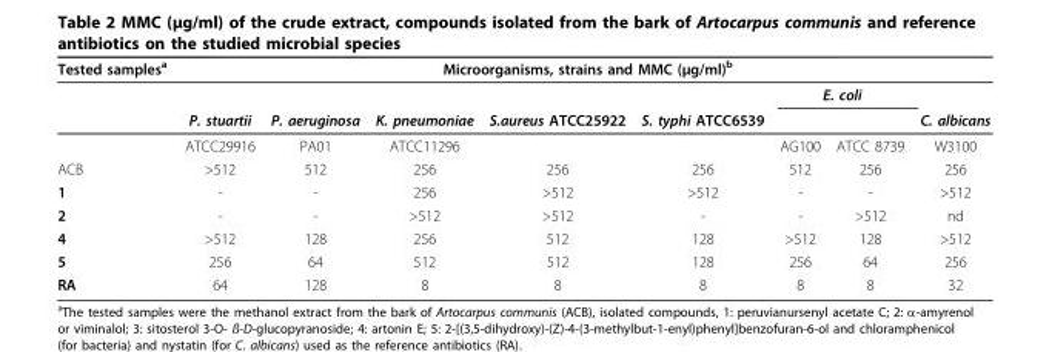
<table><thead><tr><td rowspan="3">Tested samples<sup>a</sup></td><td colspan="8">Microorganisms, strains and MMC (μg/ml)<sup>b</sup></td></tr><tr><td rowspan="2">P. stuartii</td><td rowspan="2">P. aeruginosa</td><td rowspan="2">K. pneumoniae</td><td rowspan="2">S.aureus ATCC25922</td><td rowspan="2">S. typhi ATCC6539</td><td colspan="2">E. coli</td><td rowspan="2">C. albicans</td></tr><tr><td></td><td></td></tr></thead><tbody><tr><td></td><td>ATCC29916</td><td>PA01</td><td>ATCC11296</td><td></td><td></td><td>AG100</td><td>ATCC 8739</td><td>W3100</td></tr><tr><td>ACB</td><td>&gt;512</td><td>512</td><td>256</td><td>256</td><td>256</td><td>512</td><td>256</td><td>256</td></tr><tr><td>1</td><td>-</td><td>-</td><td>256</td><td>&gt;512</td><td>&gt;512</td><td>-</td><td>-</td><td>&gt;512</td></tr><tr><td>2</td><td>-</td><td>-</td><td>&gt;512</td><td>&gt;512</td><td>-</td><td>-</td><td>&gt;512</td><td>nd</td></tr><tr><td>4</td><td>&gt;512</td><td>128</td><td>256</td><td>512</td><td>128</td><td>&gt;512</td><td>128</td><td>&gt;512</td></tr><tr><td>5</td><td>256</td><td>64</td><td>512</td><td>512</td><td>128</td><td>256</td><td>64</td><td>256</td></tr><tr><td>RA</td><td>64</td><td>128</td><td>8</td><td>8</td><td>8</td><td>8</td><td>8</td><td>32</td></tr></tbody></table>